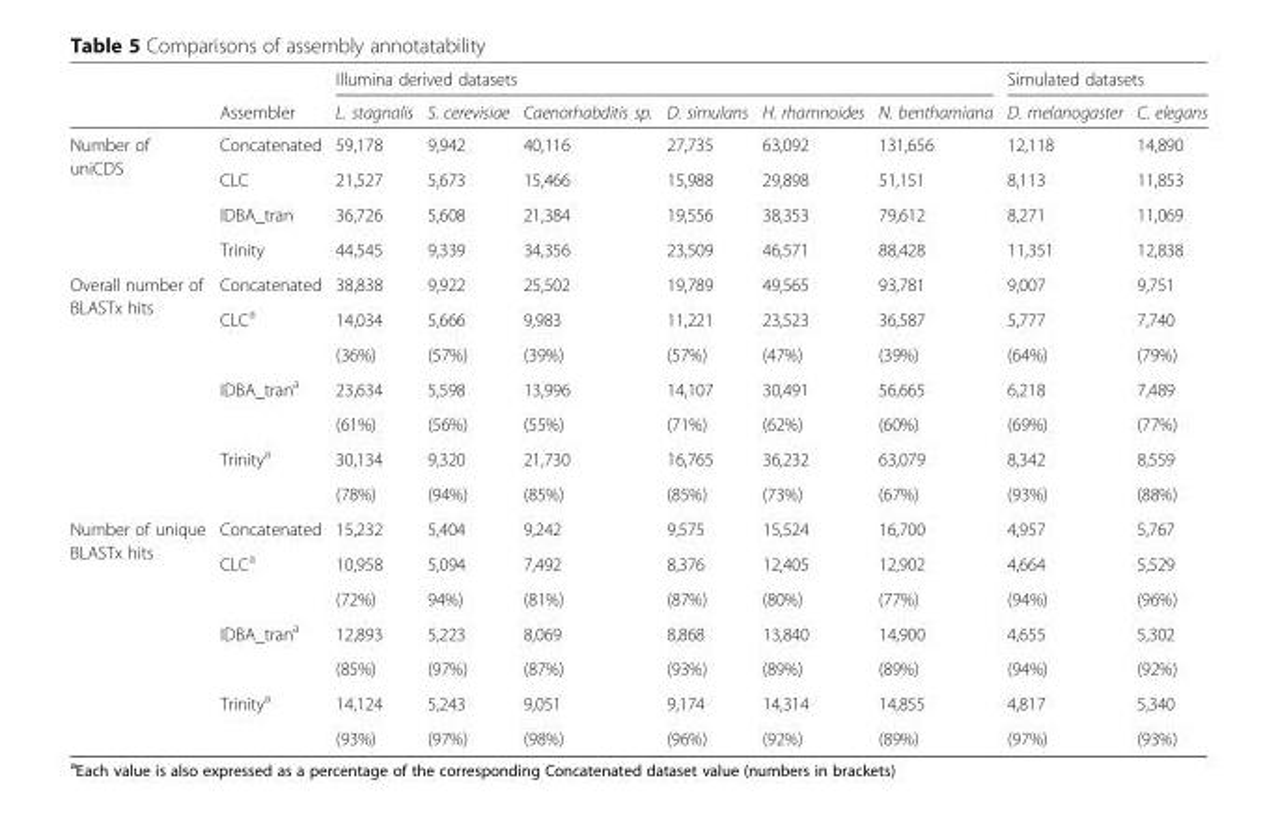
<table><thead><tr><td rowspan="2"></td><td rowspan="2">Assembler</td><td colspan="6">Illumina derived datasets</td><td colspan="2">Simulated datasets</td></tr><tr><td>L. stagnalis</td><td>S. cerevisiae</td><td>Caenorhabditis sp.</td><td>D. simulans</td><td>H. rhamnoides</td><td>N. benthamiana</td><td>D. melanogaster</td><td>C. elegans</td></tr></thead><tbody><tr><td rowspan="4">Number of uniCDS</td><td>Concatenated</td><td>59,178</td><td>9,942</td><td>40,116</td><td>27,735</td><td>63,092</td><td>131,656</td><td>12,118</td><td>14,890</td></tr><tr><td>CLC</td><td>21,527</td><td>5,673</td><td>15,466</td><td>15,988</td><td>29,898</td><td>51,151</td><td>8,113</td><td>11,853</td></tr><tr><td>IDBA_tran</td><td>36,726</td><td>5,608</td><td>21,384</td><td>19,556</td><td>38,353</td><td>79,612</td><td>8,271</td><td>11,069</td></tr><tr><td>Trinity</td><td>44,545</td><td>9,339</td><td>34,356</td><td>23,509</td><td>46,571</td><td>88,428</td><td>11,351</td><td>12,838</td></tr><tr><td rowspan="7">Overall number of BLASTx hits</td><td>Concatenated</td><td>38,838</td><td>9,922</td><td>25,502</td><td>19,789</td><td>49,565</td><td>93,781</td><td>9,007</td><td>9,751</td></tr><tr><td rowspan="2">CLC<sup>a</sup></td><td>14,034</td><td>5,666</td><td>9,983</td><td>11,221</td><td>23,523</td><td>36,587</td><td>5,777</td><td>7,740</td></tr><tr><td>(36%)</td><td>(57%)</td><td>(39%)</td><td>(57%)</td><td>(47%)</td><td>(39%)</td><td>(64%)</td><td>(79%)</td></tr><tr><td rowspan="2">IDBA_tran<sup>a</sup></td><td>23,634</td><td>5,598</td><td>13,996</td><td>14,107</td><td>30,491</td><td>56,665</td><td>6,218</td><td>7,489</td></tr><tr><td>(61%)</td><td>(56%)</td><td>(55%)</td><td>(71%)</td><td>(62%)</td><td>(60%)</td><td>(69%)</td><td>(77%)</td></tr><tr><td rowspan="2">Trinity<sup>a</sup></td><td>30,134</td><td>9,320</td><td>21,730</td><td>16,765</td><td>36,232</td><td>63,079</td><td>8,342</td><td>8,559</td></tr><tr><td>(78%)</td><td>(94%)</td><td>(85%)</td><td>(85%)</td><td>(73%)</td><td>(67%)</td><td>(93%)</td><td>(88%)</td></tr><tr><td rowspan="7">Number of unique BLASTx hits</td><td>Concatenated</td><td>15,232</td><td>5,404</td><td>9,242</td><td>9,575</td><td>15,524</td><td>16,700</td><td>4,957</td><td>5,767</td></tr><tr><td rowspan="2">CLC<sup>a</sup></td><td>10,958</td><td>5,094</td><td>7,492</td><td>8,376</td><td>12,405</td><td>12,902</td><td>4,664</td><td>5,529</td></tr><tr><td>(72%)</td><td>94%)</td><td>(81%)</td><td>(87%)</td><td>(80%)</td><td>(77%)</td><td>(94%)</td><td>(96%)</td></tr><tr><td rowspan="2">IDBA_tran<sup>a</sup></td><td>12,893</td><td>5,223</td><td>8,069</td><td>8,868</td><td>13,840</td><td>14,900</td><td>4,655</td><td>5,302</td></tr><tr><td>(85%)</td><td>(97%)</td><td>(87%)</td><td>(93%)</td><td>(89%)</td><td>(89%)</td><td>(94%)</td><td>(92%)</td></tr><tr><td rowspan="2">Trinity<sup>a</sup></td><td>14,124</td><td>5,243</td><td>9,051</td><td>9,174</td><td>14,314</td><td>14,855</td><td>4,817</td><td>5,340</td></tr><tr><td>(93%)</td><td>(97%)</td><td>(98%)</td><td>(96%)</td><td>(92%)</td><td>(89%)</td><td>(97%)</td><td>(93%)</td></tr></tbody></table>